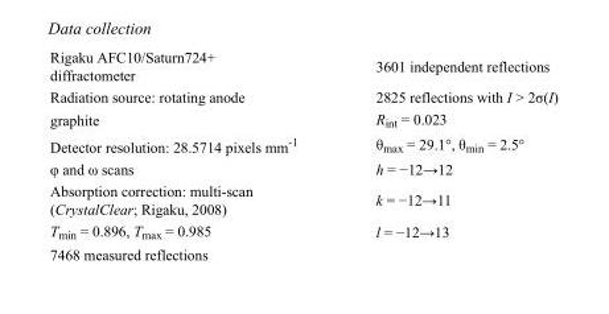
<table><tbody><tr><td>Rigaku AFC10/Saturn724+ diffractometer</td><td>3601 independent reflections</td></tr><tr><td>Radiation source: rotating anode</td><td>2825 reflections with I &gt; 2σ(I)</td></tr><tr><td>graphite</td><td>R<sub>int</sub> = 0.023</td></tr><tr><td>Detector resolution: 28.5714 pixels mm<sup>-1</sup></td><td>θ<sub>max</sub> = 29.1°, θ<sub>min</sub> = 2.5°</td></tr><tr><td>φ and ω scans</td><td>h = −12→12</td></tr><tr><td>Absorption correction: multi-scan (CrystalClear; Rigaku, 2008)</td><td>k = −12→11</td></tr><tr><td>T<sub>min</sub> = 0.896, T<sub>max</sub> = 0.985</td><td>l = −12→13</td></tr><tr><td>7468 measured reflections</td><td></td></tr></tbody></table>